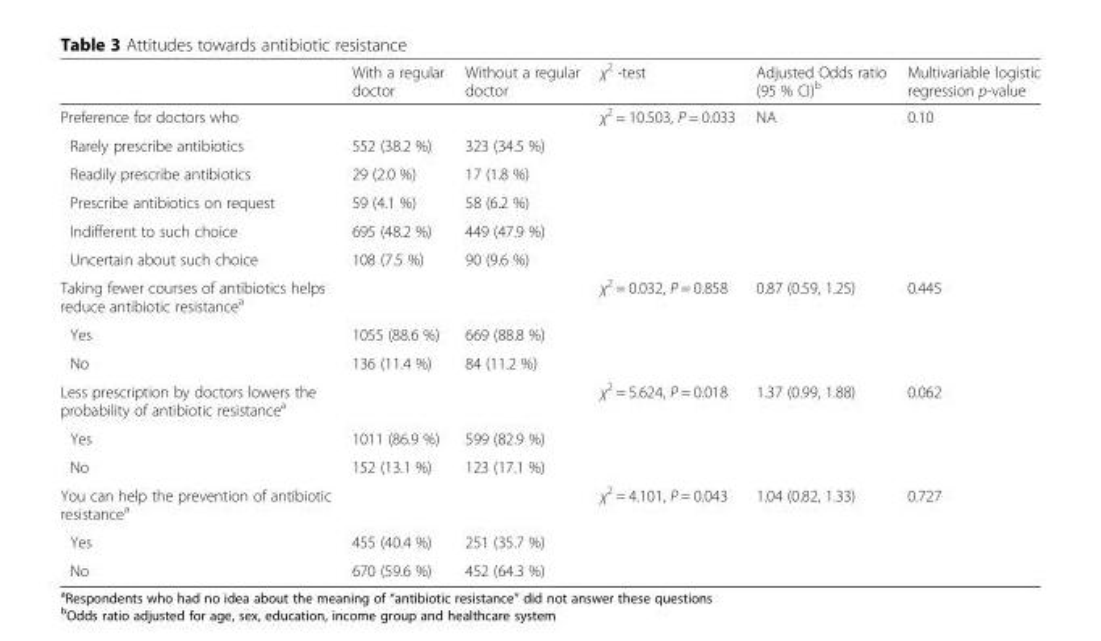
<table><thead><tr><td></td><td>With a regular doctor</td><td>Without a regular doctor</td><td>χ<sup>2</sup> -test</td><td>Adjusted Odds ratio (95 % CI)<sup>b</sup></td><td>Multivariable logistic regression p-value</td></tr></thead><tbody><tr><td>Preference for doctors who</td><td></td><td></td><td>χ<sup>2</sup> = 10.503, P = 0.033</td><td>NA</td><td>0.10</td></tr><tr><td>Rarely prescribe antibiotics</td><td>552 (38.2 %)</td><td>323 (34.5 %)</td><td></td><td></td><td></td></tr><tr><td>Readily prescribe antibiotics</td><td>29 (2.0 %)</td><td>17 (1.8 %)</td><td></td><td></td><td></td></tr><tr><td>Prescribe antibiotics on request</td><td>59 (4.1 %)</td><td>58 (6.2 %)</td><td></td><td></td><td></td></tr><tr><td>Indifferent to such choice</td><td>695 (48.2 %)</td><td>449 (47.9 %)</td><td></td><td></td><td></td></tr><tr><td>Uncertain about such choice</td><td>108 (7.5 %)</td><td>90 (9.6 %)</td><td></td><td></td><td></td></tr><tr><td>Taking fewer courses of antibiotics helps reduce antibiotic resistance<sup>a</sup></td><td></td><td></td><td>χ<sup>2</sup> = 0.032, P = 0.858</td><td>0.87 (0.59, 1.25)</td><td>0.445</td></tr><tr><td>Yes</td><td>1055 (88.6 %)</td><td>669 (88.8 %)</td><td></td><td></td><td></td></tr><tr><td>No</td><td>136 (11.4 %)</td><td>84 (11.2 %)</td><td></td><td></td><td></td></tr><tr><td>Less prescription by doctors lowers the probability of antibiotic resistance<sup>a</sup></td><td></td><td></td><td>χ<sup>2</sup> = 5.624, P = 0.018</td><td>1.37 (0.99, 1.88)</td><td>0.062</td></tr><tr><td>Yes</td><td>1011 (86.9 %)</td><td>599 (82.9 %)</td><td></td><td></td><td></td></tr><tr><td>No</td><td>152 (13.1 %)</td><td>123 (17.1 %)</td><td></td><td></td><td></td></tr><tr><td>You can help the prevention of antibiotic resistance<sup>a</sup></td><td></td><td></td><td>χ<sup>2</sup> = 4.101, P = 0.043</td><td>1.04 (0.82, 1.33)</td><td>0.727</td></tr><tr><td>Yes</td><td>455 (40.4 %)</td><td>251 (35.7 %)</td><td></td><td></td><td></td></tr><tr><td>No</td><td>670 (59.6 %)</td><td>452 (64.3 %)</td><td></td><td></td><td></td></tr></tbody></table>